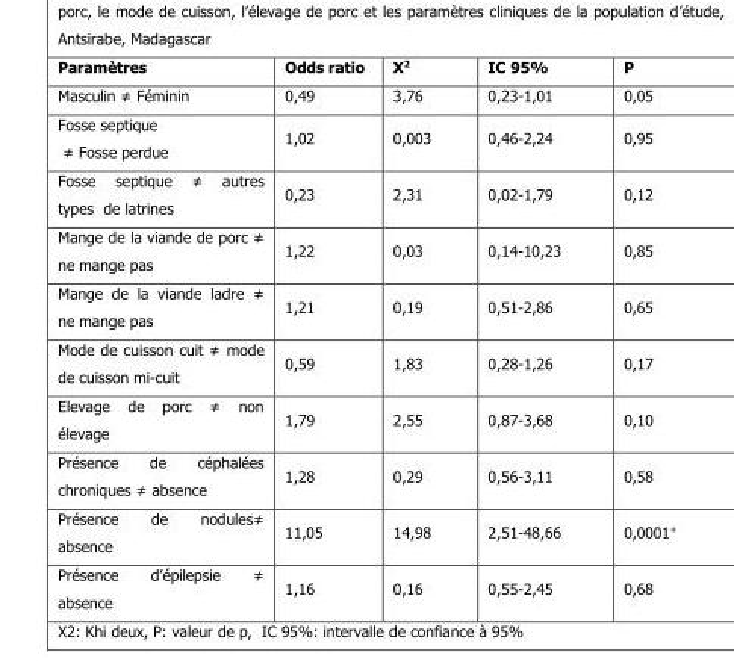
<table><thead><tr><td>Paramètres</td><td>Odds ratio</td><td>X2</td><td>IC 95%</td><td>P</td></tr></thead><tbody><tr><td>Masculin ≠ Féminin</td><td>0,49</td><td>3,76</td><td>0,23-1,01</td><td>0,05</td></tr><tr><td>Fosse septique ≠ Fosse perdue</td><td>1,02</td><td>0,003</td><td>0,46-2,24</td><td>0,95</td></tr><tr><td>Fosse septique ≠ autres types de latrines</td><td>0,23</td><td>2,31</td><td>0,02-1,79</td><td>0,12</td></tr><tr><td>Mange de la viande de porc ≠ ne mange pas</td><td>1,22</td><td>0,03</td><td>0,14-10,23</td><td>0,85</td></tr><tr><td>Mange de la viande ladre ≠ ne mange pas</td><td>1,21</td><td>0,19</td><td>0,51-2,86</td><td>0,65</td></tr><tr><td>Mode de cuisson cuit ≠ mode de cuisson mi-cuit</td><td>0,59</td><td>1,83</td><td>0,28-1,26</td><td>0,17</td></tr><tr><td>Elevage de porc ≠ non élevage</td><td>1,79</td><td>2,55</td><td>0,87-3,68</td><td>0,10</td></tr><tr><td>Présence de céphalées chroniques ≠ absence</td><td>1,28</td><td>0,29</td><td>0,56-3,11</td><td>0,58</td></tr><tr><td>Présence de nodules≠ absence</td><td>11,05</td><td>14,98</td><td>2,51-48,66</td><td>0,0001<sup>+</sup></td></tr><tr><td>Présence d’épilepsie ≠ absence</td><td>1,16</td><td>0,16</td><td>0,55-2,45</td><td>0,68</td></tr></tbody></table>